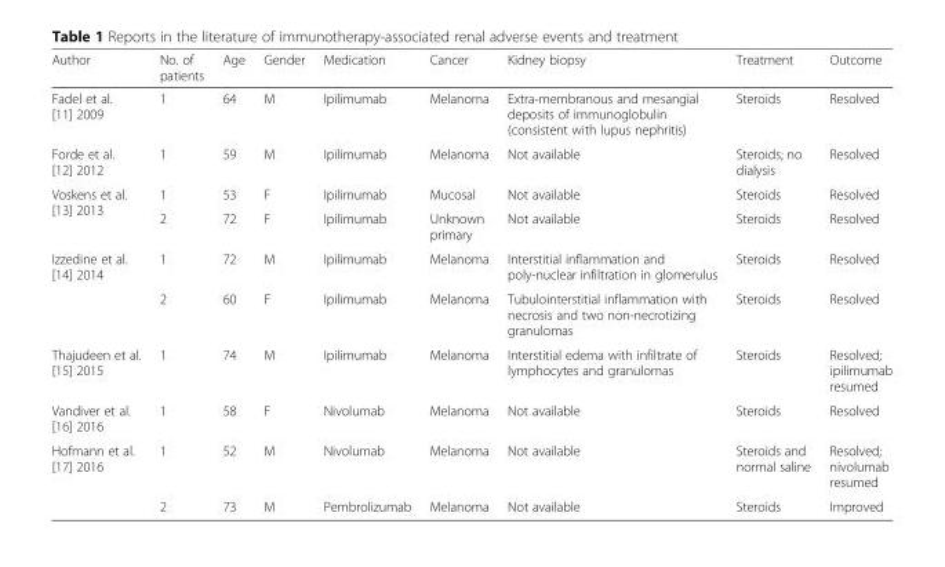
<table><thead><tr><td>Author</td><td>No. of patients</td><td>Age</td><td>Gender</td><td>Medication</td><td>Cancer</td><td>Kidney biopsy</td><td>Treatment</td><td>Outcome</td></tr></thead><tbody><tr><td>Fadel et al. [11] 2009</td><td>1</td><td>64</td><td>M</td><td>Ipilimumab</td><td>Melanoma</td><td>Extra-membranous and mesangial deposits of immunoglobulin (consistent with lupus nephritis)</td><td>Steroids</td><td>Resolved</td></tr><tr><td>Forde et al. [12] 2012</td><td>1</td><td>59</td><td>M</td><td>Ipilimumab</td><td>Melanoma</td><td>Not available</td><td>Steroids; no dialysis</td><td>Resolved</td></tr><tr><td rowspan="2">Voskens et al. [13] 2013</td><td>1</td><td>53</td><td>F</td><td>Ipilimumab</td><td>Mucosal</td><td>Not available</td><td>Steroids</td><td>Resolved</td></tr><tr><td>2</td><td>72</td><td>F</td><td>Ipilimumab</td><td>Unknown primary</td><td>Not available</td><td>Steroids</td><td>Resolved</td></tr><tr><td rowspan="2">Izzedine et al. [14] 2014</td><td>1</td><td>72</td><td>M</td><td>Ipilimumab</td><td>Melanoma</td><td>Interstitial inflammation and poly-nuclear infiltration in glomerulus</td><td>Steroids</td><td>Resolved</td></tr><tr><td>2</td><td>60</td><td>F</td><td>Ipilimumab</td><td>Melanoma</td><td>Tubulointerstitial inflammation with necrosis and two non-necrotizing granulomas</td><td>Steroids</td><td>Resolved</td></tr><tr><td>Thajudeen et al. [15] 2015</td><td>1</td><td>74</td><td>M</td><td>Ipilimumab</td><td>Melanoma</td><td>Interstitial edema with infiltrate of lymphocytes and granulomas</td><td>Steroids</td><td>Resolved; ipilimumab resumed</td></tr><tr><td>Vandiver et al. [16] 2016</td><td>1</td><td>58</td><td>F</td><td>Nivolumab</td><td>Melanoma</td><td>Not available</td><td>Steroids</td><td>Resolved</td></tr><tr><td rowspan="2">Hofmann et al. [17] 2016</td><td>1</td><td>52</td><td>M</td><td>Nivolumab</td><td>Melanoma</td><td>Not available</td><td>Steroids and normal saline</td><td>Resolved; nivolumab resumed</td></tr><tr><td>2</td><td>73</td><td>M</td><td>Pembrolizumab</td><td>Melanoma</td><td>Not available</td><td>Steroids</td><td>Improved</td></tr></tbody></table>